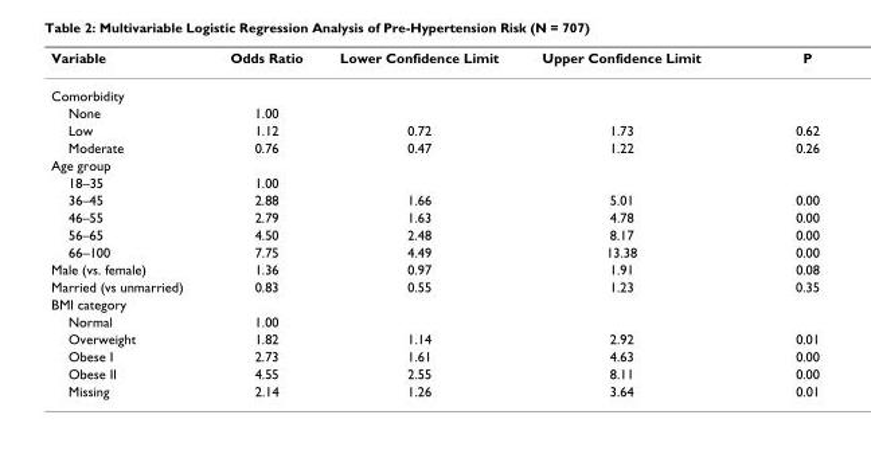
<table><thead><tr><td>Variable</td><td>Odds Ratio</td><td>Lower Confidence Limit</td><td>Upper Confidence Limit</td><td>P</td></tr></thead><tbody><tr><td colspan="5">Comorbidity</td></tr><tr><td>None</td><td>1.00</td><td></td><td></td><td></td></tr><tr><td>Low</td><td>1.12</td><td>0.72</td><td>1.73</td><td>0.62</td></tr><tr><td>Moderate</td><td>0.76</td><td>0.47</td><td>1.22</td><td>0.26</td></tr><tr><td colspan="5">Age group</td></tr><tr><td>18–35</td><td>1.00</td><td></td><td></td><td></td></tr><tr><td>36–45</td><td>2.88</td><td>1.66</td><td>5.01</td><td>0.00</td></tr><tr><td>46–55</td><td>2.79</td><td>1.63</td><td>4.78</td><td>0.00</td></tr><tr><td>56–65</td><td>4.50</td><td>2.48</td><td>8.17</td><td>0.00</td></tr><tr><td>66–100</td><td>7.75</td><td>4.49</td><td>13.38</td><td>0.00</td></tr><tr><td>Male (vs. female)</td><td>1.36</td><td>0.97</td><td>1.91</td><td>0.08</td></tr><tr><td>Married (vs unmarried)</td><td>0.83</td><td>0.55</td><td>1.23</td><td>0.35</td></tr><tr><td colspan="5">BMI category</td></tr><tr><td>Normal</td><td>1.00</td><td></td><td></td><td></td></tr><tr><td>Overweight</td><td>1.82</td><td>1.14</td><td>2.92</td><td>0.01</td></tr><tr><td>Obese I</td><td>2.73</td><td>1.61</td><td>4.63</td><td>0.00</td></tr><tr><td>Obese II</td><td>4.55</td><td>2.55</td><td>8.11</td><td>0.00</td></tr><tr><td>Missing</td><td>2.14</td><td>1.26</td><td>3.64</td><td>0.01</td></tr></tbody></table>